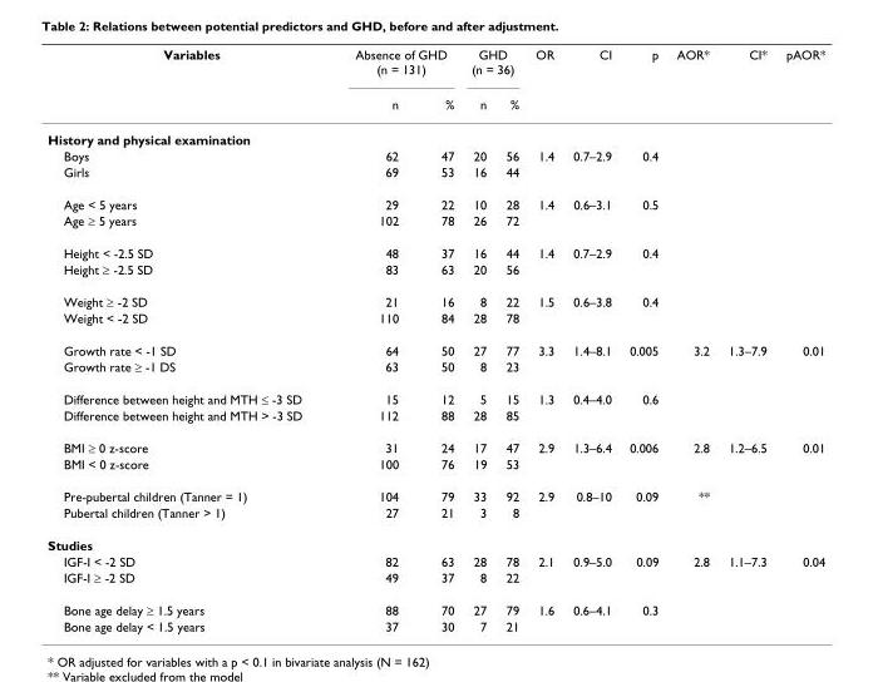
<table><thead><tr><td rowspan="2">Variables</td><td colspan="2">Absence of GHD (n = 131)</td><td colspan="2">GHD (n = 36)</td><td rowspan="2">OR</td><td rowspan="2">CI</td><td rowspan="2">p</td><td rowspan="2">AOR*</td><td rowspan="2">CI*</td><td rowspan="2">pAOR*</td></tr><tr><td>n</td><td>%</td><td>n</td><td>%</td></tr></thead><tbody><tr><td colspan="11">History and physical examination</td></tr><tr><td>Boys</td><td>62</td><td>47</td><td>20</td><td>56</td><td>1.4</td><td>0.7–2.9</td><td>0.4</td><td></td><td></td><td></td></tr><tr><td>Girls</td><td>69</td><td>53</td><td>16</td><td>44</td><td></td><td></td><td></td><td></td><td></td><td></td></tr><tr><td>Age &lt; 5 years</td><td>29</td><td>22</td><td>10</td><td>28</td><td>1.4</td><td>0.6–3.1</td><td>0.5</td><td></td><td></td><td></td></tr><tr><td>Age ≥ 5 years</td><td>102</td><td>78</td><td>26</td><td>72</td><td></td><td></td><td></td><td></td><td></td><td></td></tr><tr><td>Height &lt; -2.5 SD</td><td>48</td><td>37</td><td>16</td><td>44</td><td>1.4</td><td>0.7–2.9</td><td>0.4</td><td></td><td></td><td></td></tr><tr><td>Height ≥ -2.5 SD</td><td>83</td><td>63</td><td>20</td><td>56</td><td></td><td></td><td></td><td></td><td></td><td></td></tr><tr><td>Weight ≥ -2 SD</td><td>21</td><td>16</td><td>8</td><td>22</td><td>1.5</td><td>0.6–3.8</td><td>0.4</td><td></td><td></td><td></td></tr><tr><td>Weight &lt; -2 SD</td><td>110</td><td>84</td><td>28</td><td>78</td><td></td><td></td><td></td><td></td><td></td><td></td></tr><tr><td>Growth rate &lt; -1 SD</td><td>64</td><td>50</td><td>27</td><td>77</td><td>3.3</td><td>1.4–8.1</td><td>0.005</td><td>3.2</td><td>1.3–7.9</td><td>0.01</td></tr><tr><td>Growth rate ≥ -1 DS</td><td>63</td><td>50</td><td>8</td><td>23</td><td></td><td></td><td></td><td></td><td></td><td></td></tr><tr><td>Difference between height and MTH ≤ -3 SD</td><td>15</td><td>12</td><td>5</td><td>15</td><td>1.3</td><td>0.4–4.0</td><td>0.6</td><td></td><td></td><td></td></tr><tr><td>Difference between height and MTH &gt; -3 SD</td><td>112</td><td>88</td><td>28</td><td>85</td><td></td><td></td><td></td><td></td><td></td><td></td></tr><tr><td>BMI ≥ 0 z-score</td><td>31</td><td>24</td><td>17</td><td>47</td><td>2.9</td><td>1.3–6.4</td><td>0.006</td><td>2.8</td><td>1.2–6.5</td><td>0.01</td></tr><tr><td>BMI &lt; 0 z-score</td><td>100</td><td>76</td><td>19</td><td>53</td><td></td><td></td><td></td><td></td><td></td><td></td></tr><tr><td>Pre-pubertal children (Tanner = 1)</td><td>104</td><td>79</td><td>33</td><td>92</td><td>2.9</td><td>0.8–10</td><td>0.09</td><td>**</td><td></td><td></td></tr><tr><td>Pubertal children (Tanner &gt; 1)</td><td>27</td><td>21</td><td>3</td><td>8</td><td></td><td></td><td></td><td></td><td></td><td></td></tr><tr><td colspan="11">Studies</td></tr><tr><td>IGF-I &lt; -2 SD</td><td>82</td><td>63</td><td>28</td><td>78</td><td>2.1</td><td>0.9–5.0</td><td>0.09</td><td>2.8</td><td>1.1–7.3</td><td>0.04</td></tr><tr><td>IGF-I ≥ -2 SD</td><td>49</td><td>37</td><td>8</td><td>22</td><td></td><td></td><td></td><td></td><td></td><td></td></tr><tr><td>Bone age delay ≥ 1.5 years</td><td>88</td><td>70</td><td>27</td><td>79</td><td>1.6</td><td>0.6–4.1</td><td>0.3</td><td></td><td></td><td></td></tr><tr><td>Bone age delay &lt; 1.5 years</td><td>37</td><td>30</td><td>7</td><td>21</td><td></td><td></td><td></td><td></td><td></td><td></td></tr></tbody></table>